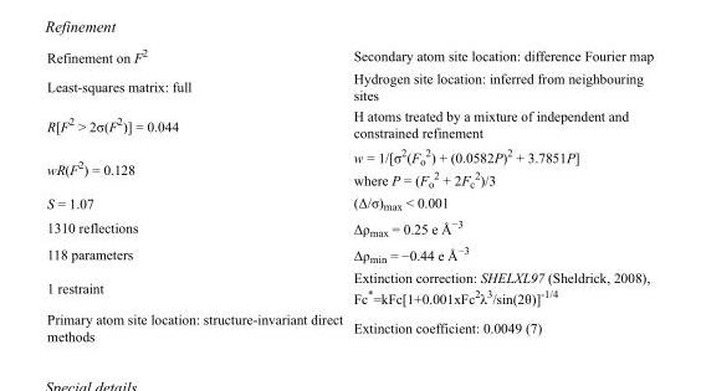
<table><tbody><tr><td>Refinement on F<sup>2</sup></td><td>Secondary atom site location: difference Fourier map</td></tr><tr><td>Least-squares matrix: full</td><td>Hydrogen site location: inferred from neighbouring sites</td></tr><tr><td>R[F<sup>2</sup> &gt; 2σ(F<sup>2</sup>)] = 0.044</td><td>H atoms treated by a mixture of independent and constrained refinement</td></tr><tr><td>wR(F<sup>2</sup>) = 0.128</td><td>w = 1/[σ<sup>2</sup>(F<sub>o</sub> <sup>2</sup>) + (0.0582P)<sup>2</sup> + 3.7851P] where P = (F<sub>o</sub> <sup>2</sup> + 2F<sub>c</sub> <sup>2</sup>)/3</td></tr><tr><td>S = 1.07</td><td>(Δ/σ)<sub>max</sub> &lt; 0.001</td></tr><tr><td>1310 reflections</td><td>Δρ<sub>max</sub> = 0.25 e Å<sup>−3</sup></td></tr><tr><td>118 parameters</td><td>Δρ<sub>min</sub> = −0.44 e Å<sup>−3</sup></td></tr><tr><td>1 restraint</td><td>Extinction correction: SHELXL97 (Sheldrick, 2008), Fc*=kFc[1+0.001xFc<sup>2</sup>λ<sup>3</sup>/sin(2θ)]<sup>-1/4</sup></td></tr><tr><td>Primary atom site location: structure-invariant direct methods</td><td>Extinction coefficient: 0.0049 (7)</td></tr></tbody></table>